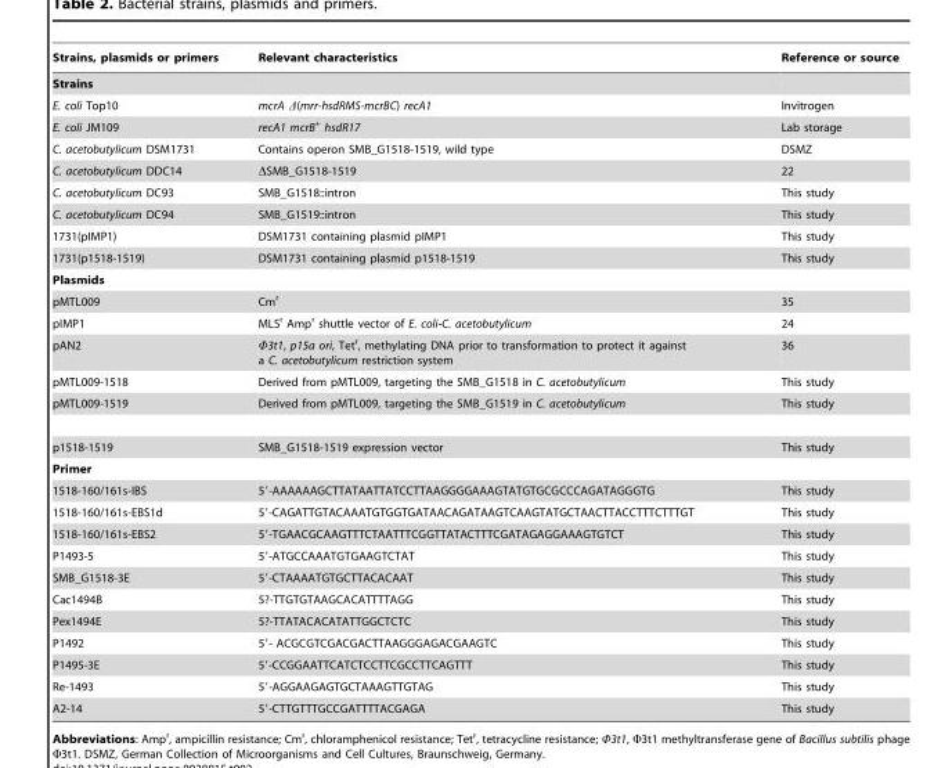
<table><thead><tr><td>Strains, plasmids or primers</td><td>Relevant characteristics</td><td>Reference or source</td></tr></thead><tbody><tr><td colspan="3">Strains</td></tr><tr><td>E. coli Top10</td><td>mcrA Δ(mrr-hsdRMS-mcrBC) recA1</td><td>Invitrogen</td></tr><tr><td>E. coli JM109</td><td>recA1 mcrB<sup>+</sup> hsdR17</td><td>Lab storage</td></tr><tr><td>C. acetobutylicum DSM1731</td><td>Contains operon SMB_G1518-1519, wild type</td><td>DSMZ</td></tr><tr><td>C. acetobutylicum DDC14</td><td>ΔSMB_G1518-1519</td><td>22</td></tr><tr><td>C. acetobutylicum DC93</td><td>SMB_G1518::intron</td><td>This study</td></tr><tr><td>C. acetobutylicum DC94</td><td>SMB_G1519::intron</td><td>This study</td></tr><tr><td>1731(pIMP1)</td><td>DSM1731 containing plasmid pIMP1</td><td>This study</td></tr><tr><td>1731(p1518-1519)</td><td>DSM1731 containing plasmid p1518-1519</td><td>This study</td></tr><tr><td colspan="3">Plasmids</td></tr><tr><td>pMTL009</td><td>Cm<sup>r</sup></td><td>35</td></tr><tr><td>pIMP1</td><td>MLS<sup>r</sup> Amp<sup>r</sup> shuttle vector of E. coli-C. acetobutylicum</td><td>24</td></tr><tr><td>pAN2</td><td>Φ3t1, p15a ori, Tet<sup>r</sup>, methylating DNA prior to transformation to protect it against a C. acetobutylicum restriction system</td><td>36</td></tr><tr><td>pMTL009-1518</td><td>Derived from pMTL009, targeting the SMB_G1518 in C. acetobutylicum</td><td>This study</td></tr><tr><td>pMTL009-1519</td><td>Derived from pMTL009, targeting the SMB_G1519 in C. acetobutylicum</td><td>This study</td></tr><tr><td>p1518-1519</td><td>SMB_G1518-1519 expression vector</td><td>This study</td></tr><tr><td colspan="3">Primer</td></tr><tr><td>1518-160/161s-IBS</td><td>5′-AAAAAAGCTTATAATTATCCTTAAGGGGAAAGTATGTGCGCCCAGATAGGGTG</td><td>This study</td></tr><tr><td>1518-160/161s-EBS1d</td><td>5′-CAGATTGTACAAATGTGGTGATAACAGATAAGTCAAGTATGCTAACTTACCTTTCTTTGT</td><td>This study</td></tr><tr><td>1518-160/161s-EBS2</td><td>5′-TGAACGCAAGTTTCTAATTTCGGTTATACTTTCGATAGAGGAAAGTGTCT</td><td>This study</td></tr><tr><td>P1493-5</td><td>5′-ATGCCAAATGTGAAGTCTAT</td><td>This study</td></tr><tr><td>SMB_G1518-3E</td><td>5′-CTAAAATGTGCTTACACAAT</td><td>This study</td></tr><tr><td>Cac1494B</td><td>5?-TTGTGTAAGCACATTTTAGG</td><td>This study</td></tr><tr><td>Pex1494E</td><td>5?-TTATACACATATTGGCTCTC</td><td>This study</td></tr><tr><td>P1492</td><td>5′- ACGCGTCGACGACTTAAGGGAGACGAAGTC</td><td>This study</td></tr><tr><td>P1495-3E</td><td>5′-CCGGAATTCATCTCCTTCGCCTTCAGTTT</td><td>This study</td></tr><tr><td>Re-1493</td><td>5′-AGGAAGAGTGCTAAAGTTGTAG</td><td>This study</td></tr><tr><td>A2-14</td><td>5′-CTTGTTTGCCGATTTTACGAGA</td><td>This study</td></tr></tbody></table>